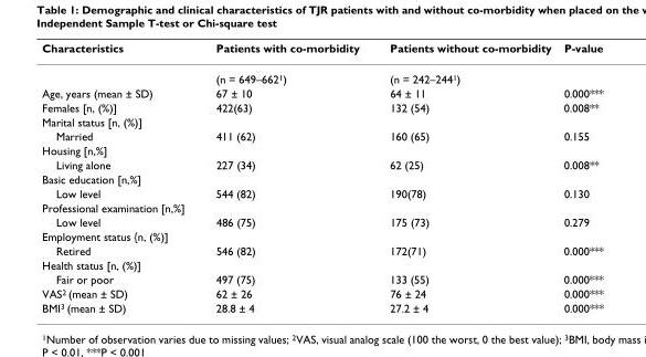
<table><thead><tr><td>Characteristics</td><td>Patients with co-morbidity</td><td>Patients without co-morbidity</td><td>P-value</td></tr></thead><tbody><tr><td></td><td>(n = 649–662<sup>1</sup>)</td><td>(n = 242–244<sup>1</sup>)</td><td></td></tr><tr><td>Age, years (mean ± SD)</td><td>67 ± 10</td><td>64 ± 11</td><td>0.000***</td></tr><tr><td>Females [n, (%)]</td><td>422(63)</td><td>132 (54)</td><td>0.008**</td></tr><tr><td colspan="4">Marital status [n, (%)]</td></tr><tr><td>Married</td><td>411 (62)</td><td>160 (65)</td><td>0.155</td></tr><tr><td colspan="4">Housing [n,%]</td></tr><tr><td>Living alone</td><td>227 (34)</td><td>62 (25)</td><td>0.008**</td></tr><tr><td colspan="4">Basic education [n,%]</td></tr><tr><td>Low level</td><td>544 (82)</td><td>190(78)</td><td>0.130</td></tr><tr><td colspan="4">Professional examination [n,%]</td></tr><tr><td>Low level</td><td>486 (75)</td><td>175 (73)</td><td>0.279</td></tr><tr><td colspan="4">Employment status {n, (%)]</td></tr><tr><td>Retired</td><td>546 (82)</td><td>172(71)</td><td>0.000***</td></tr><tr><td colspan="4">Health status [n, (%)]</td></tr><tr><td>Fair or poor</td><td>497 (75)</td><td>133 (55)</td><td>0.000***</td></tr><tr><td>VAS<sup>2</sup> (mean ± SD)</td><td>62 ± 26</td><td>76 ± 24</td><td>0.000***</td></tr><tr><td>BMI<sup>3</sup> (mean ± SD)</td><td>28.8 ± 4</td><td>27.2 ± 4</td><td>0.000***</td></tr></tbody></table>